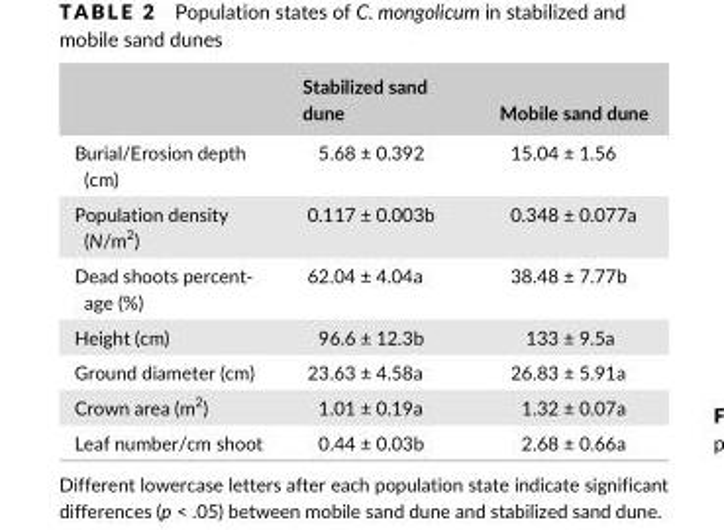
<table><thead><tr><td></td><td>Stabilized sand dune</td><td>Mobile sand dune</td></tr></thead><tbody><tr><td>Burial/Erosion depth (cm)</td><td>5.68 ± 0.392</td><td>15.04 ± 1.56</td></tr><tr><td>Population density (N/m<sup>2</sup>)</td><td>0.117 ± 0.003b</td><td>0.348 ± 0.077a</td></tr><tr><td>Dead shoots percent- age (%)</td><td>62.04 ± 4.04a</td><td>38.48 ± 7.77b</td></tr><tr><td>Height (cm)</td><td>96.6 ± 12.3b</td><td>133 ± 9.5a</td></tr><tr><td>Ground diameter (cm)</td><td>23.63 ± 4.58a</td><td>26.83 ± 5.91a</td></tr><tr><td>Crown area (m<sup>2</sup>)</td><td>1.01 ± 0.19a</td><td>1.32 ± 0.07a</td></tr><tr><td>Leaf number/cm shoot</td><td>0.44 ± 0.03b</td><td>2.68 ± 0.66a</td></tr></tbody></table>